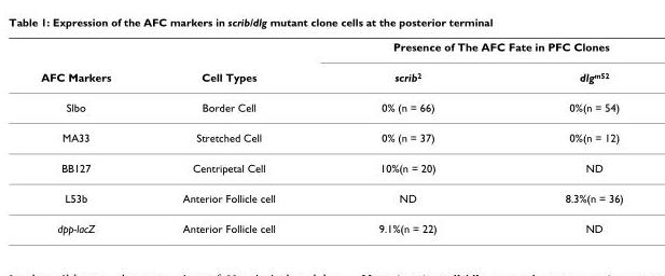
<table><thead><tr><td rowspan="2">AFC Markers</td><td rowspan="2">Cell Types</td><td colspan="2">Presence of The AFC Fate in PFC Clones</td></tr><tr><td>scrib<sup>2</sup></td><td>dlg<sup>m52</sup></td></tr></thead><tbody><tr><td>Slbo</td><td>Border Cell</td><td>0% (n = 66)</td><td>0%(n = 54)</td></tr><tr><td>MA33</td><td>Stretched Cell</td><td>0% (n = 37)</td><td>0%(n = 12)</td></tr><tr><td>BB127</td><td>Centripetal Cell</td><td>10%(n = 20)</td><td>ND</td></tr><tr><td>L53b</td><td>Anterior Follicle cell</td><td>ND</td><td>8.3%(n = 36)</td></tr><tr><td>dpp-lacZ</td><td>Anterior Follicle cell</td><td>9.1%(n = 22)</td><td>ND</td></tr></tbody></table>